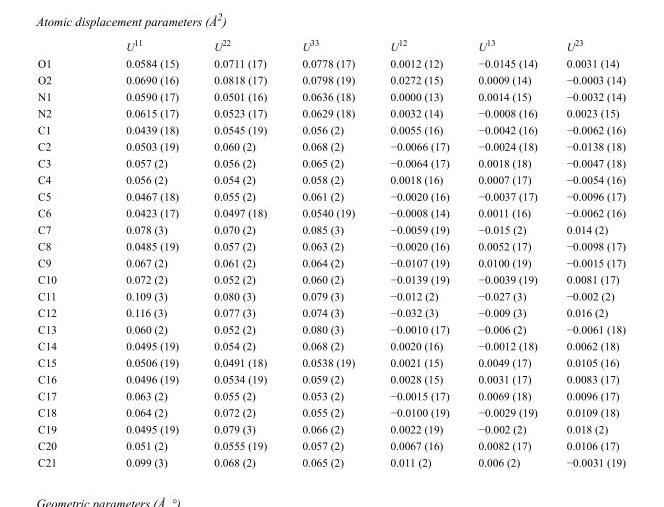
<table><thead><tr><td></td><td>U<sup>11</sup></td><td>U<sup>22</sup></td><td>U<sup>33</sup></td><td>U<sup>12</sup></td><td>U<sup>13</sup></td><td>U<sup>23</sup></td></tr></thead><tbody><tr><td>O1</td><td>0.0584 (15)</td><td>0.0711 (17)</td><td>0.0778 (17)</td><td>0.0012 (12)</td><td>−0.0145 (14)</td><td>0.0031 (14)</td></tr><tr><td>O2</td><td>0.0690 (16)</td><td>0.0818 (17)</td><td>0.0798 (19)</td><td>0.0272 (15)</td><td>0.0009 (14)</td><td>−0.0003 (14)</td></tr><tr><td>N1</td><td>0.0590 (17)</td><td>0.0501 (16)</td><td>0.0636 (18)</td><td>0.0000 (13)</td><td>0.0014 (15)</td><td>−0.0032 (14)</td></tr><tr><td>N2</td><td>0.0615 (17)</td><td>0.0523 (17)</td><td>0.0629 (18)</td><td>0.0032 (14)</td><td>−0.0008 (16)</td><td>0.0023 (15)</td></tr><tr><td>C1</td><td>0.0439 (18)</td><td>0.0545 (19)</td><td>0.056 (2)</td><td>0.0055 (16)</td><td>−0.0042 (16)</td><td>−0.0062 (16)</td></tr><tr><td>C2</td><td>0.0503 (19)</td><td>0.060 (2)</td><td>0.068 (2)</td><td>−0.0066 (17)</td><td>−0.0024 (18)</td><td>−0.0138 (18)</td></tr><tr><td>C3</td><td>0.057 (2)</td><td>0.056 (2)</td><td>0.065 (2)</td><td>−0.0064 (17)</td><td>0.0018 (18)</td><td>−0.0047 (18)</td></tr><tr><td>C4</td><td>0.056 (2)</td><td>0.054 (2)</td><td>0.058 (2)</td><td>0.0018 (16)</td><td>0.0007 (17)</td><td>−0.0054 (16)</td></tr><tr><td>C5</td><td>0.0467 (18)</td><td>0.055 (2)</td><td>0.061 (2)</td><td>−0.0020 (16)</td><td>−0.0037 (17)</td><td>−0.0096 (17)</td></tr><tr><td>C6</td><td>0.0423 (17)</td><td>0.0497 (18)</td><td>0.0540 (19)</td><td>−0.0008 (14)</td><td>0.0011 (16)</td><td>−0.0062 (16)</td></tr><tr><td>C7</td><td>0.078 (3)</td><td>0.070 (2)</td><td>0.085 (3)</td><td>−0.0059 (19)</td><td>−0.015 (2)</td><td>0.014 (2)</td></tr><tr><td>C8</td><td>0.0485 (19)</td><td>0.057 (2)</td><td>0.063 (2)</td><td>−0.0020 (16)</td><td>0.0052 (17)</td><td>−0.0098 (17)</td></tr><tr><td>C9</td><td>0.067 (2)</td><td>0.061 (2)</td><td>0.064 (2)</td><td>−0.0107 (19)</td><td>0.0100 (19)</td><td>−0.0015 (17)</td></tr><tr><td>C10</td><td>0.072 (2)</td><td>0.052 (2)</td><td>0.060 (2)</td><td>−0.0139 (19)</td><td>−0.0039 (19)</td><td>0.0081 (17)</td></tr><tr><td>C11</td><td>0.109 (3)</td><td>0.080 (3)</td><td>0.079 (3)</td><td>−0.012 (2)</td><td>−0.027 (3)</td><td>−0.002 (2)</td></tr><tr><td>C12</td><td>0.116 (3)</td><td>0.077 (3)</td><td>0.074 (3)</td><td>−0.032 (3)</td><td>−0.009 (3)</td><td>0.016 (2)</td></tr><tr><td>C13</td><td>0.060 (2)</td><td>0.052 (2)</td><td>0.080 (3)</td><td>−0.0010 (17)</td><td>−0.006 (2)</td><td>−0.0061 (18)</td></tr><tr><td>C14</td><td>0.0495 (19)</td><td>0.054 (2)</td><td>0.068 (2)</td><td>0.0020 (16)</td><td>−0.0012 (18)</td><td>0.0062 (18)</td></tr><tr><td>C15</td><td>0.0506 (19)</td><td>0.0491 (18)</td><td>0.0538 (19)</td><td>0.0021 (15)</td><td>0.0049 (17)</td><td>0.0105 (16)</td></tr><tr><td>C16</td><td>0.0496 (19)</td><td>0.0534 (19)</td><td>0.059 (2)</td><td>0.0028 (15)</td><td>0.0031 (17)</td><td>0.0083 (17)</td></tr><tr><td>C17</td><td>0.063 (2)</td><td>0.055 (2)</td><td>0.053 (2)</td><td>−0.0015 (17)</td><td>0.0069 (18)</td><td>0.0096 (17)</td></tr><tr><td>C18</td><td>0.064 (2)</td><td>0.072 (2)</td><td>0.055 (2)</td><td>−0.0100 (19)</td><td>−0.0029 (19)</td><td>0.0109 (18)</td></tr><tr><td>C19</td><td>0.0495 (19)</td><td>0.079 (3)</td><td>0.066 (2)</td><td>0.0022 (19)</td><td>−0.002 (2)</td><td>0.018 (2)</td></tr><tr><td>C20</td><td>0.051 (2)</td><td>0.0555 (19)</td><td>0.057 (2)</td><td>0.0067 (16)</td><td>0.0082 (17)</td><td>0.0106 (17)</td></tr><tr><td>C21</td><td>0.099 (3)</td><td>0.068 (2)</td><td>0.065 (2)</td><td>0.011 (2)</td><td>0.006 (2)</td><td>−0.0031 (19)</td></tr></tbody></table>